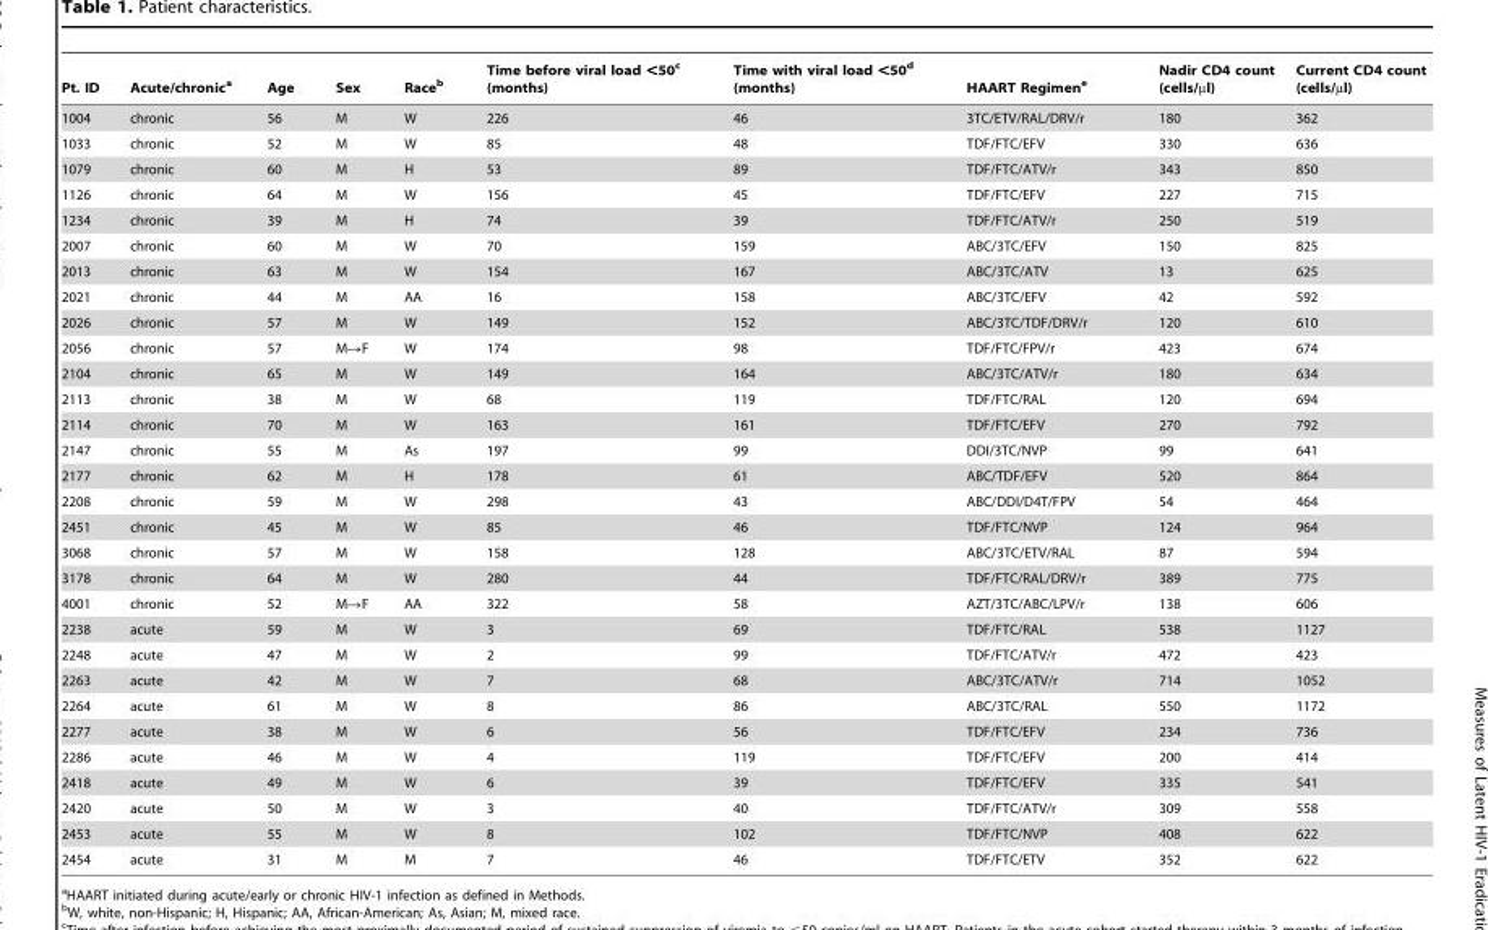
<table><thead><tr><td>Pt. ID</td><td>Acute/chronic<sup>a</sup></td><td>Age</td><td>Sex</td><td>Race<sup>b</sup></td><td>Time before viral load &lt;50<sup>c</sup> (months)</td><td>Time with viral load &lt;50<sup>d</sup> (months)</td><td>HAART Regimen<sup>e</sup></td><td>Nadir CD4 count (cells/µl)</td><td>Current CD4 count (cells/µl)</td></tr></thead><tbody><tr><td>1004</td><td>chronic</td><td>56</td><td>M</td><td>W</td><td>226</td><td>46</td><td>3TC/ETV/RAL/DRV/r</td><td>180</td><td>362</td></tr><tr><td>1033</td><td>chronic</td><td>52</td><td>M</td><td>W</td><td>85</td><td>48</td><td>TDF/FTC/EFV</td><td>330</td><td>636</td></tr><tr><td>1079</td><td>chronic</td><td>60</td><td>M</td><td>H</td><td>53</td><td>89</td><td>TDF/FTC/ATV/r</td><td>343</td><td>850</td></tr><tr><td>1126</td><td>chronic</td><td>64</td><td>M</td><td>W</td><td>156</td><td>45</td><td>TDF/FTC/EFV</td><td>227</td><td>715</td></tr><tr><td>1234</td><td>chronic</td><td>39</td><td>M</td><td>H</td><td>74</td><td>39</td><td>TDF/FTC/ATV/r</td><td>250</td><td>519</td></tr><tr><td>2007</td><td>chronic</td><td>60</td><td>M</td><td>W</td><td>70</td><td>159</td><td>ABC/3TC/EFV</td><td>150</td><td>825</td></tr><tr><td>2013</td><td>chronic</td><td>63</td><td>M</td><td>W</td><td>154</td><td>167</td><td>ABC/3TC/ATV</td><td>13</td><td>625</td></tr><tr><td>2021</td><td>chronic</td><td>44</td><td>M</td><td>AA</td><td>16</td><td>158</td><td>ABC/3TC/EFV</td><td>42</td><td>592</td></tr><tr><td>2026</td><td>chronic</td><td>57</td><td>M</td><td>W</td><td>149</td><td>152</td><td>ABC/3TC/TDF/DRV/r</td><td>120</td><td>610</td></tr><tr><td>2056</td><td>chronic</td><td>57</td><td>M→F</td><td>W</td><td>174</td><td>98</td><td>TDF/FTC/FPV/r</td><td>423</td><td>674</td></tr><tr><td>2104</td><td>chronic</td><td>65</td><td>M</td><td>W</td><td>149</td><td>164</td><td>ABC/3TC/ATV/r</td><td>180</td><td>634</td></tr><tr><td>2113</td><td>chronic</td><td>38</td><td>M</td><td>W</td><td>68</td><td>119</td><td>TDF/FTC/RAL</td><td>120</td><td>694</td></tr><tr><td>2114</td><td>chronic</td><td>70</td><td>M</td><td>W</td><td>163</td><td>161</td><td>TDF/FTC/EFV</td><td>270</td><td>792</td></tr><tr><td>2147</td><td>chronic</td><td>55</td><td>M</td><td>As</td><td>197</td><td>99</td><td>DDI/3TC/NVP</td><td>99</td><td>641</td></tr><tr><td>2177</td><td>chronic</td><td>62</td><td>M</td><td>H</td><td>178</td><td>61</td><td>ABC/TDF/EFV</td><td>520</td><td>864</td></tr><tr><td>2208</td><td>chronic</td><td>59</td><td>M</td><td>W</td><td>298</td><td>43</td><td>ABC/DDI/D4T/FPV</td><td>54</td><td>464</td></tr><tr><td>2451</td><td>chronic</td><td>45</td><td>M</td><td>W</td><td>85</td><td>46</td><td>TDF/FTC/NVP</td><td>124</td><td>964</td></tr><tr><td>3068</td><td>chronic</td><td>57</td><td>M</td><td>W</td><td>158</td><td>128</td><td>ABC/3TC/ETV/RAL</td><td>87</td><td>594</td></tr><tr><td>3178</td><td>chronic</td><td>64</td><td>M</td><td>W</td><td>280</td><td>44</td><td>TDF/FTC/RAL/DRV/r</td><td>389</td><td>775</td></tr><tr><td>4001</td><td>chronic</td><td>52</td><td>M→F</td><td>AA</td><td>322</td><td>58</td><td>AZT/3TC/ABC/LPV/r</td><td>138</td><td>606</td></tr><tr><td>2238</td><td>acute</td><td>59</td><td>M</td><td>W</td><td>3</td><td>69</td><td>TDF/FTC/RAL</td><td>538</td><td>1127</td></tr><tr><td>2248</td><td>acute</td><td>47</td><td>M</td><td>W</td><td>2</td><td>99</td><td>TDF/FTC/ATV/r</td><td>472</td><td>423</td></tr><tr><td>2263</td><td>acute</td><td>42</td><td>M</td><td>W</td><td>7</td><td>68</td><td>ABC/3TC/ATV/r</td><td>714</td><td>1052</td></tr><tr><td>2264</td><td>acute</td><td>61</td><td>M</td><td>W</td><td>8</td><td>86</td><td>ABC/3TC/RAL</td><td>550</td><td>1172</td></tr><tr><td>2277</td><td>acute</td><td>38</td><td>M</td><td>W</td><td>6</td><td>56</td><td>TDF/FTC/EFV</td><td>234</td><td>736</td></tr><tr><td>2286</td><td>acute</td><td>46</td><td>M</td><td>W</td><td>4</td><td>119</td><td>TDF/FTC/EFV</td><td>200</td><td>414</td></tr><tr><td>2418</td><td>acute</td><td>49</td><td>M</td><td>W</td><td>6</td><td>39</td><td>TDF/FTC/EFV</td><td>335</td><td>541</td></tr><tr><td>2420</td><td>acute</td><td>50</td><td>M</td><td>W</td><td>3</td><td>40</td><td>TDF/FTC/ATV/r</td><td>309</td><td>558</td></tr><tr><td>2453</td><td>acute</td><td>55</td><td>M</td><td>W</td><td>8</td><td>102</td><td>TDF/FTC/NVP</td><td>408</td><td>622</td></tr><tr><td>2454</td><td>acute</td><td>31</td><td>M</td><td>M</td><td>7</td><td>46</td><td>TDF/FTC/ETV</td><td>352</td><td>622</td></tr></tbody></table>